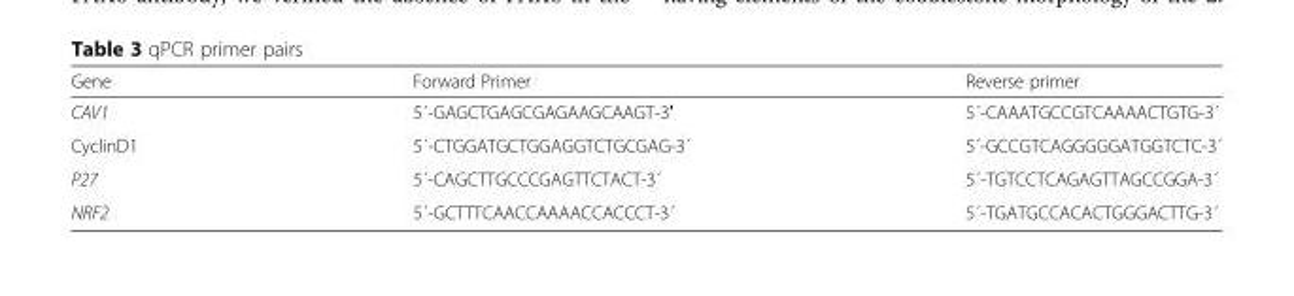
<table><thead><tr><td>Gene</td><td>Forward Primer</td><td>Reverse primer</td></tr></thead><tbody><tr><td>CAV1</td><td>5´-GAGCTGAGCGAGAAGCAAGT-3′</td><td>5´-CAAATGCCGTCAAAACTGTG-3´</td></tr><tr><td>CyclinD1</td><td>5´-CTGGATGCTGGAGGTCTGCGAG-3´</td><td>5´-GCCGTCAGGGGGATGGTCTC-3´</td></tr><tr><td>P27</td><td>5´-CAGCTTGCCCGAGTTCTACT-3´</td><td>5´-TGTCCTCAGAGTTAGCCGGA-3´</td></tr><tr><td>NRF2</td><td>5´-GCTTTCAACCAAAACCACCCT-3´</td><td>5´-TGATGCCACACTGGGACTTG-3´</td></tr></tbody></table>